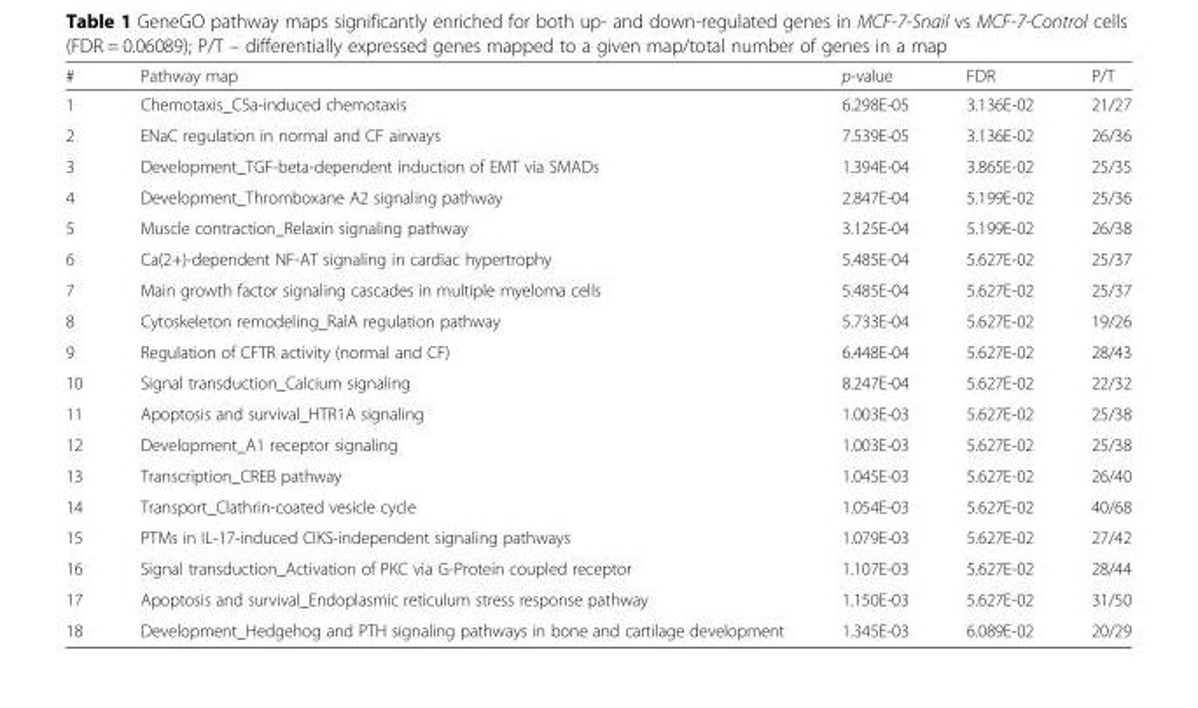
<table><thead><tr><td>#</td><td>Pathway map</td><td>p-value</td><td>FDR</td><td>P/T</td></tr></thead><tbody><tr><td>1</td><td>Chemotaxis_C5a-induced chemotaxis</td><td>6.298E-05</td><td>3.136E-02</td><td>21/27</td></tr><tr><td>2</td><td>ENaC regulation in normal and CF airways</td><td>7.539E-05</td><td>3.136E-02</td><td>26/36</td></tr><tr><td>3</td><td>Development_TGF-beta-dependent induction of EMT via SMADs</td><td>1.394E-04</td><td>3.865E-02</td><td>25/35</td></tr><tr><td>4</td><td>Development_Thromboxane A2 signaling pathway</td><td>2.847E-04</td><td>5.199E-02</td><td>25/36</td></tr><tr><td>5</td><td>Muscle contraction_Relaxin signaling pathway</td><td>3.125E-04</td><td>5.199E-02</td><td>26/38</td></tr><tr><td>6</td><td>Ca(2+)-dependent NF-AT signaling in cardiac hypertrophy</td><td>5.485E-04</td><td>5.627E-02</td><td>25/37</td></tr><tr><td>7</td><td>Main growth factor signaling cascades in multiple myeloma cells</td><td>5.485E-04</td><td>5.627E-02</td><td>25/37</td></tr><tr><td>8</td><td>Cytoskeleton remodeling_RalA regulation pathway</td><td>5.733E-04</td><td>5.627E-02</td><td>19/26</td></tr><tr><td>9</td><td>Regulation of CFTR activity (normal and CF)</td><td>6.448E-04</td><td>5.627E-02</td><td>28/43</td></tr><tr><td>10</td><td>Signal transduction_Calcium signaling</td><td>8.247E-04</td><td>5.627E-02</td><td>22/32</td></tr><tr><td>11</td><td>Apoptosis and survival_HTR1A signaling</td><td>1.003E-03</td><td>5.627E-02</td><td>25/38</td></tr><tr><td>12</td><td>Development_A1 receptor signaling</td><td>1.003E-03</td><td>5.627E-02</td><td>25/38</td></tr><tr><td>13</td><td>Transcription_CREB pathway</td><td>1.045E-03</td><td>5.627E-02</td><td>26/40</td></tr><tr><td>14</td><td>Transport_Clathrin-coated vesicle cycle</td><td>1.054E-03</td><td>5.627E-02</td><td>40/68</td></tr><tr><td>15</td><td>PTMs in IL-17-induced CIKS-independent signaling pathways</td><td>1.079E-03</td><td>5.627E-02</td><td>27/42</td></tr><tr><td>16</td><td>Signal transduction_Activation of PKC via G-Protein coupled receptor</td><td>1.107E-03</td><td>5.627E-02</td><td>28/44</td></tr><tr><td>17</td><td>Apoptosis and survival_Endoplasmic reticulum stress response pathway</td><td>1.150E-03</td><td>5.627E-02</td><td>31/50</td></tr><tr><td>18</td><td>Development_Hedgehog and PTH signaling pathways in bone and cartilage development</td><td>1.345E-03</td><td>6.089E-02</td><td>20/29</td></tr></tbody></table>